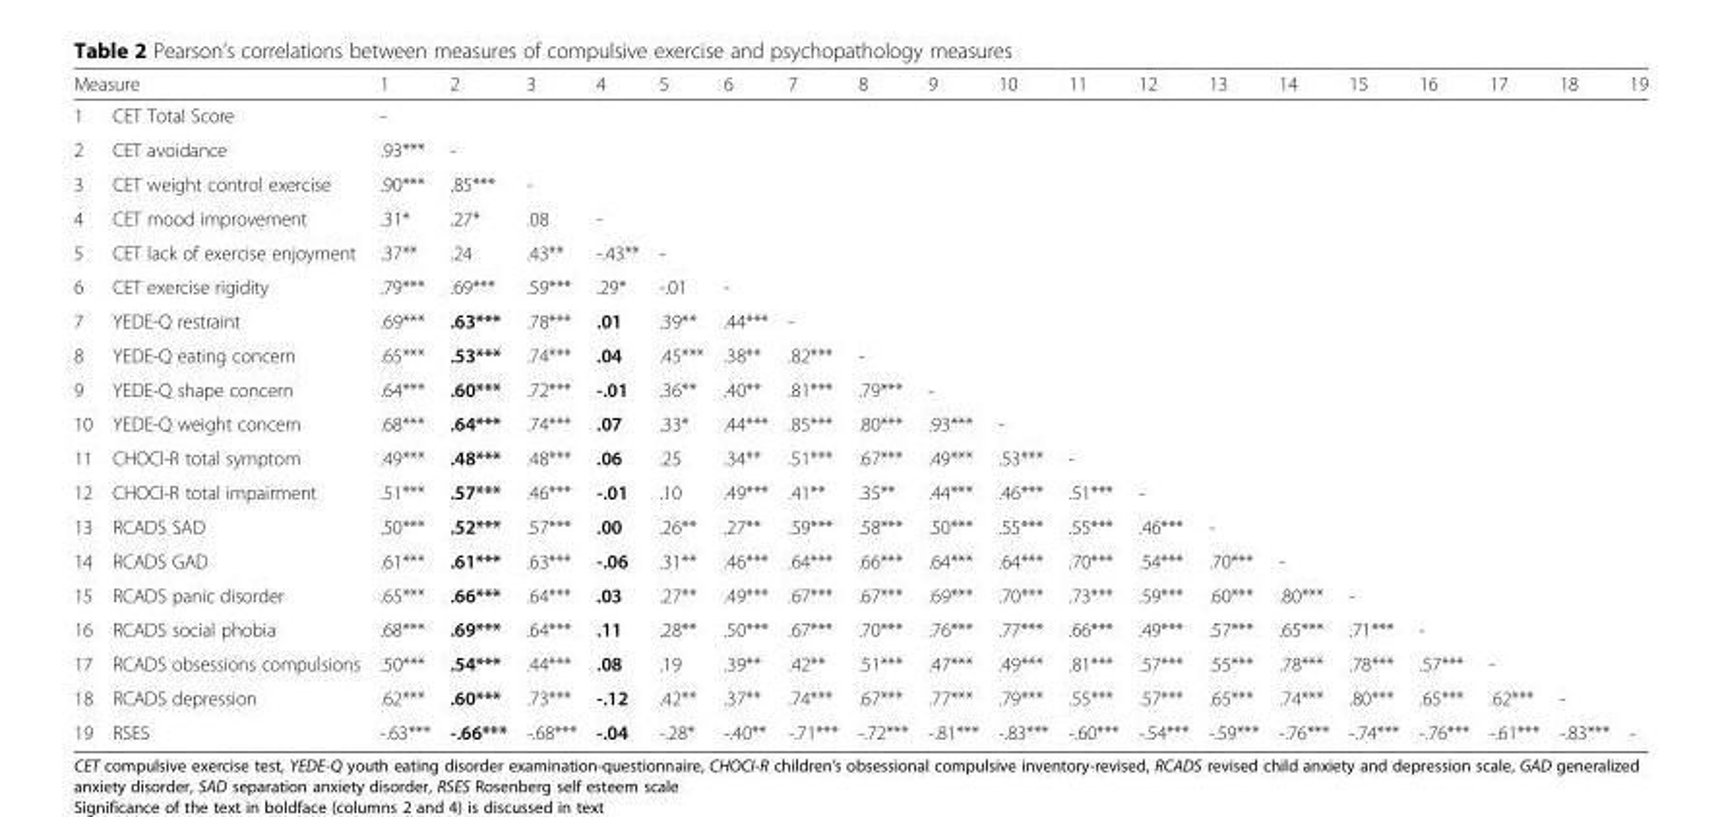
<table><thead><tr><td colspan="2">Measure</td><td rowspan="2">1 -</td><td rowspan="2">2</td><td rowspan="2">3</td><td rowspan="2">4</td><td rowspan="2">5</td><td rowspan="2">6</td><td rowspan="2">7</td><td rowspan="2">8</td><td rowspan="2">9</td><td rowspan="2">10</td><td rowspan="2">11</td><td rowspan="2">12</td><td rowspan="2">13</td><td rowspan="2">14</td><td rowspan="2">15</td><td rowspan="2">16</td><td rowspan="2">17</td><td rowspan="2">18</td><td rowspan="2">19</td></tr><tr><td>1</td><td>CET Total Score</td></tr></thead><tbody><tr><td>2</td><td>CET avoidance</td><td>.93***</td><td>-</td><td></td><td></td><td></td><td></td><td></td><td></td><td></td><td></td><td></td><td></td><td></td><td></td><td></td><td></td><td></td><td></td><td></td></tr><tr><td>3</td><td>CET weight control exercise</td><td>.90***</td><td>.85***</td><td>-</td><td></td><td></td><td></td><td></td><td></td><td></td><td></td><td></td><td></td><td></td><td></td><td></td><td></td><td></td><td></td><td></td></tr><tr><td>4</td><td>CET mood improvement</td><td>.31*</td><td>.27*</td><td>.08</td><td>-</td><td></td><td></td><td></td><td></td><td></td><td></td><td></td><td></td><td></td><td></td><td></td><td></td><td></td><td></td><td></td></tr><tr><td>5</td><td>CET lack of exercise enjoyment</td><td>.37**</td><td>.24</td><td>.43**</td><td>-.43**</td><td>-</td><td></td><td></td><td></td><td></td><td></td><td></td><td></td><td></td><td></td><td></td><td></td><td></td><td></td><td></td></tr><tr><td>6</td><td>CET exercise rigidity</td><td>.79***</td><td>.69***</td><td>.59***</td><td>.29*</td><td>-.01</td><td>-</td><td></td><td></td><td></td><td></td><td></td><td></td><td></td><td></td><td></td><td></td><td></td><td></td><td></td></tr><tr><td>7</td><td>YEDE-Q restraint</td><td>.69***</td><td>.63***</td><td>.78***</td><td>.01</td><td>.39**</td><td>.44***</td><td>-</td><td></td><td></td><td></td><td></td><td></td><td></td><td></td><td></td><td></td><td></td><td></td><td></td></tr><tr><td>8</td><td>YEDE-Q eating concern</td><td>.65***</td><td>.53***</td><td>.74***</td><td>.04</td><td>.45***</td><td>.38**</td><td>.82***</td><td>-</td><td></td><td></td><td></td><td></td><td></td><td></td><td></td><td></td><td></td><td></td><td></td></tr><tr><td>9</td><td>YEDE-Q shape concern</td><td>.64***</td><td>.60***</td><td>.72***</td><td>-.01</td><td>.36**</td><td>.40**</td><td>.81***</td><td>.79***</td><td>-</td><td></td><td></td><td></td><td></td><td></td><td></td><td></td><td></td><td></td><td></td></tr><tr><td>10</td><td>YEDE-Q weight concern</td><td>.68***</td><td>.64***</td><td>.74***</td><td>.07</td><td>.33*</td><td>.44***</td><td>.85***</td><td>.80***</td><td>.93***</td><td>-</td><td></td><td></td><td></td><td></td><td></td><td></td><td></td><td></td><td></td></tr><tr><td>11</td><td>CHOCI-R total symptom</td><td>.49***</td><td>.48***</td><td>.48***</td><td>.06</td><td>.25</td><td>.34**</td><td>.51***</td><td>.67***</td><td>.49***</td><td>.53***</td><td>-</td><td></td><td></td><td></td><td></td><td></td><td></td><td></td><td></td></tr><tr><td>12</td><td>CHOCI-R total impairment</td><td>.51***</td><td>.57***</td><td>.46***</td><td>-.01</td><td>.10</td><td>.49***</td><td>.41**</td><td>.35**</td><td>.44***</td><td>.46***</td><td>.51***</td><td>-</td><td></td><td></td><td></td><td></td><td></td><td></td><td></td></tr><tr><td>13</td><td>RCADS SAD</td><td>.50***</td><td>.52***</td><td>.57***</td><td>.00</td><td>.26**</td><td>.27**</td><td>.59***</td><td>.58***</td><td>.50***</td><td>.55***</td><td>.55***</td><td>.46***</td><td>-</td><td></td><td></td><td></td><td></td><td></td><td></td></tr><tr><td>14</td><td>RCADS GAD</td><td>.61***</td><td>.61***</td><td>.63***</td><td>-.06</td><td>.31**</td><td>.46***</td><td>.64***</td><td>.66***</td><td>.64***</td><td>.64***</td><td>.70***</td><td>.54***</td><td>.70***</td><td>-</td><td></td><td></td><td></td><td></td><td></td></tr><tr><td>15</td><td>RCADS panic disorder</td><td>.65***</td><td>.66***</td><td>.64***</td><td>.03</td><td>.27**</td><td>.49***</td><td>.67***</td><td>.67***</td><td>.69***</td><td>.70***</td><td>.73***</td><td>.59***</td><td>.60***</td><td>.80***</td><td>-</td><td></td><td></td><td></td><td></td></tr><tr><td>16</td><td>RCADS social phobia</td><td>.68***</td><td>.69***</td><td>.64***</td><td>.11</td><td>.28**</td><td>.50***</td><td>.67***</td><td>.70***</td><td>.76***</td><td>.77***</td><td>.66***</td><td>.49***</td><td>.57***</td><td>.65***</td><td>.71***</td><td>-</td><td></td><td></td><td></td></tr><tr><td>17</td><td>RCADS obsessions compulsions</td><td>.50***</td><td>.54***</td><td>.44***</td><td>.08</td><td>.19</td><td>.39**</td><td>.42**</td><td>.51***</td><td>.47***</td><td>.49***</td><td>.81***</td><td>.57***</td><td>.55***</td><td>.78***</td><td>.78***</td><td>.57***</td><td>-</td><td></td><td></td></tr><tr><td>18</td><td>RCADS depression</td><td>.62***</td><td>.60***</td><td>.73***</td><td>-.12</td><td>.42**</td><td>.37**</td><td>.74***</td><td>.67***</td><td>.77***</td><td>.79***</td><td>.55***</td><td>.57***</td><td>.65***</td><td>.74***</td><td>.80***</td><td>.65***</td><td>.62***</td><td>-</td><td></td></tr><tr><td>19</td><td>RSES</td><td>-.63***</td><td>-.66***</td><td>-.68***</td><td>-.04</td><td>-.28*</td><td>-.40**</td><td>-.71***</td><td>-.72***</td><td>-.81***</td><td>-.83***</td><td>-.60***</td><td>-.54***</td><td>-.59***</td><td>-.76***</td><td>-.74***</td><td>-.76***</td><td>-.61***</td><td>-.83***</td><td>-</td></tr></tbody></table>